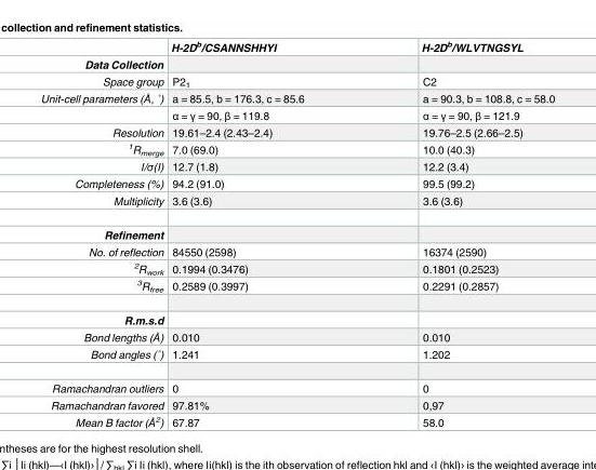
<table><thead><tr><td></td><td>H-2D<sup>b</sup>/CSANNSHHYI</td><td>H-2D<sup>b</sup>/WLVTNGSYL</td></tr></thead><tbody><tr><td colspan="3">Data Collection</td></tr><tr><td>Space group</td><td>P2<sub>1</sub></td><td>C2</td></tr><tr><td rowspan="2">Unit-cell parameters (Å, ˚)</td><td>a = 85.5, b = 176.3, c = 85.6</td><td>a = 90.3, b = 108.8, c = 58.0</td></tr><tr><td>α = γ = 90, β = 119.8</td><td>α = γ = 90, β = 121.9</td></tr><tr><td>Resolution</td><td>19.61–2.4 (2.43–2.4)</td><td>19.76–2.5 (2.66–2.5)</td></tr><tr><td><sup>1</sup>R<sub>merge</sub></td><td>7.0 (69.0)</td><td>10.0 (40.3)</td></tr><tr><td>I/σ(I)</td><td>12.7 (1.8)</td><td>12.2 (3.4)</td></tr><tr><td>Completeness (%)</td><td>94.2 (91.0)</td><td>99.5 (99.2)</td></tr><tr><td>Multiplicity</td><td>3.6 (3.6)</td><td>3.6 (3.6)</td></tr><tr><td colspan="3">Refinement</td></tr><tr><td>No. of reflection</td><td>84550 (2598)</td><td>16374 (2590)</td></tr><tr><td><sup>2</sup>R<sub>work</sub></td><td>0.1994 (0.3476)</td><td>0.1801 (0.2523)</td></tr><tr><td><sup>3</sup>R<sub>free</sub></td><td>0.2589 (0.3997)</td><td>0.2291 (0.2857)</td></tr><tr><td colspan="3">R.m.s.d</td></tr><tr><td>Bond lengths (Å)</td><td>0.010</td><td>0.010</td></tr><tr><td>Bond angles (˚)</td><td>1.241</td><td>1.202</td></tr><tr><td>Ramachandran outliers</td><td>0</td><td>0</td></tr><tr><td>Ramachandran favored</td><td>97.81%</td><td>0,97</td></tr><tr><td>Mean B factor (Å<sup>2</sup>)</td><td>67.87</td><td>58.0</td></tr></tbody></table>